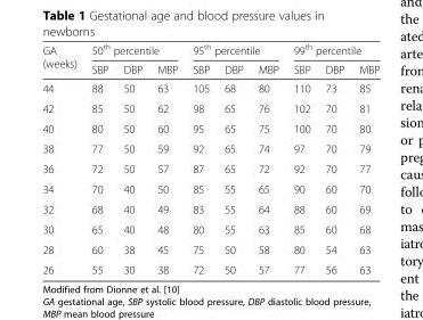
<table><thead><tr><td rowspan="2">GA (weeks)</td><td colspan="3">50<sup>th</sup> percentile</td><td colspan="3">95<sup>th</sup> percentile</td><td colspan="3">99<sup>th</sup> percentile</td></tr><tr><td>SBP</td><td>DBP</td><td>MBP</td><td>SBP</td><td>DBP</td><td>MBP</td><td>SBP</td><td>DBP</td><td>MBP</td></tr></thead><tbody><tr><td>44</td><td>88</td><td>50</td><td>63</td><td>105</td><td>68</td><td>80</td><td>110</td><td>73</td><td>85</td></tr><tr><td>42</td><td>85</td><td>50</td><td>62</td><td>98</td><td>65</td><td>76</td><td>102</td><td>70</td><td>81</td></tr><tr><td>40</td><td>80</td><td>50</td><td>60</td><td>95</td><td>65</td><td>75</td><td>100</td><td>70</td><td>80</td></tr><tr><td>38</td><td>77</td><td>50</td><td>59</td><td>92</td><td>65</td><td>74</td><td>97</td><td>70</td><td>79</td></tr><tr><td>36</td><td>72</td><td>50</td><td>57</td><td>87</td><td>65</td><td>72</td><td>92</td><td>70</td><td>77</td></tr><tr><td>34</td><td>70</td><td>40</td><td>50</td><td>85</td><td>55</td><td>65</td><td>90</td><td>60</td><td>70</td></tr><tr><td>32</td><td>68</td><td>40</td><td>49</td><td>83</td><td>55</td><td>64</td><td>88</td><td>60</td><td>69</td></tr><tr><td>30</td><td>65</td><td>40</td><td>48</td><td>80</td><td>55</td><td>63</td><td>85</td><td>60</td><td>68</td></tr><tr><td>28</td><td>60</td><td>38</td><td>45</td><td>75</td><td>50</td><td>58</td><td>80</td><td>54</td><td>63</td></tr><tr><td>26</td><td>55</td><td>30</td><td>38</td><td>72</td><td>50</td><td>57</td><td>77</td><td>56</td><td>63</td></tr></tbody></table>